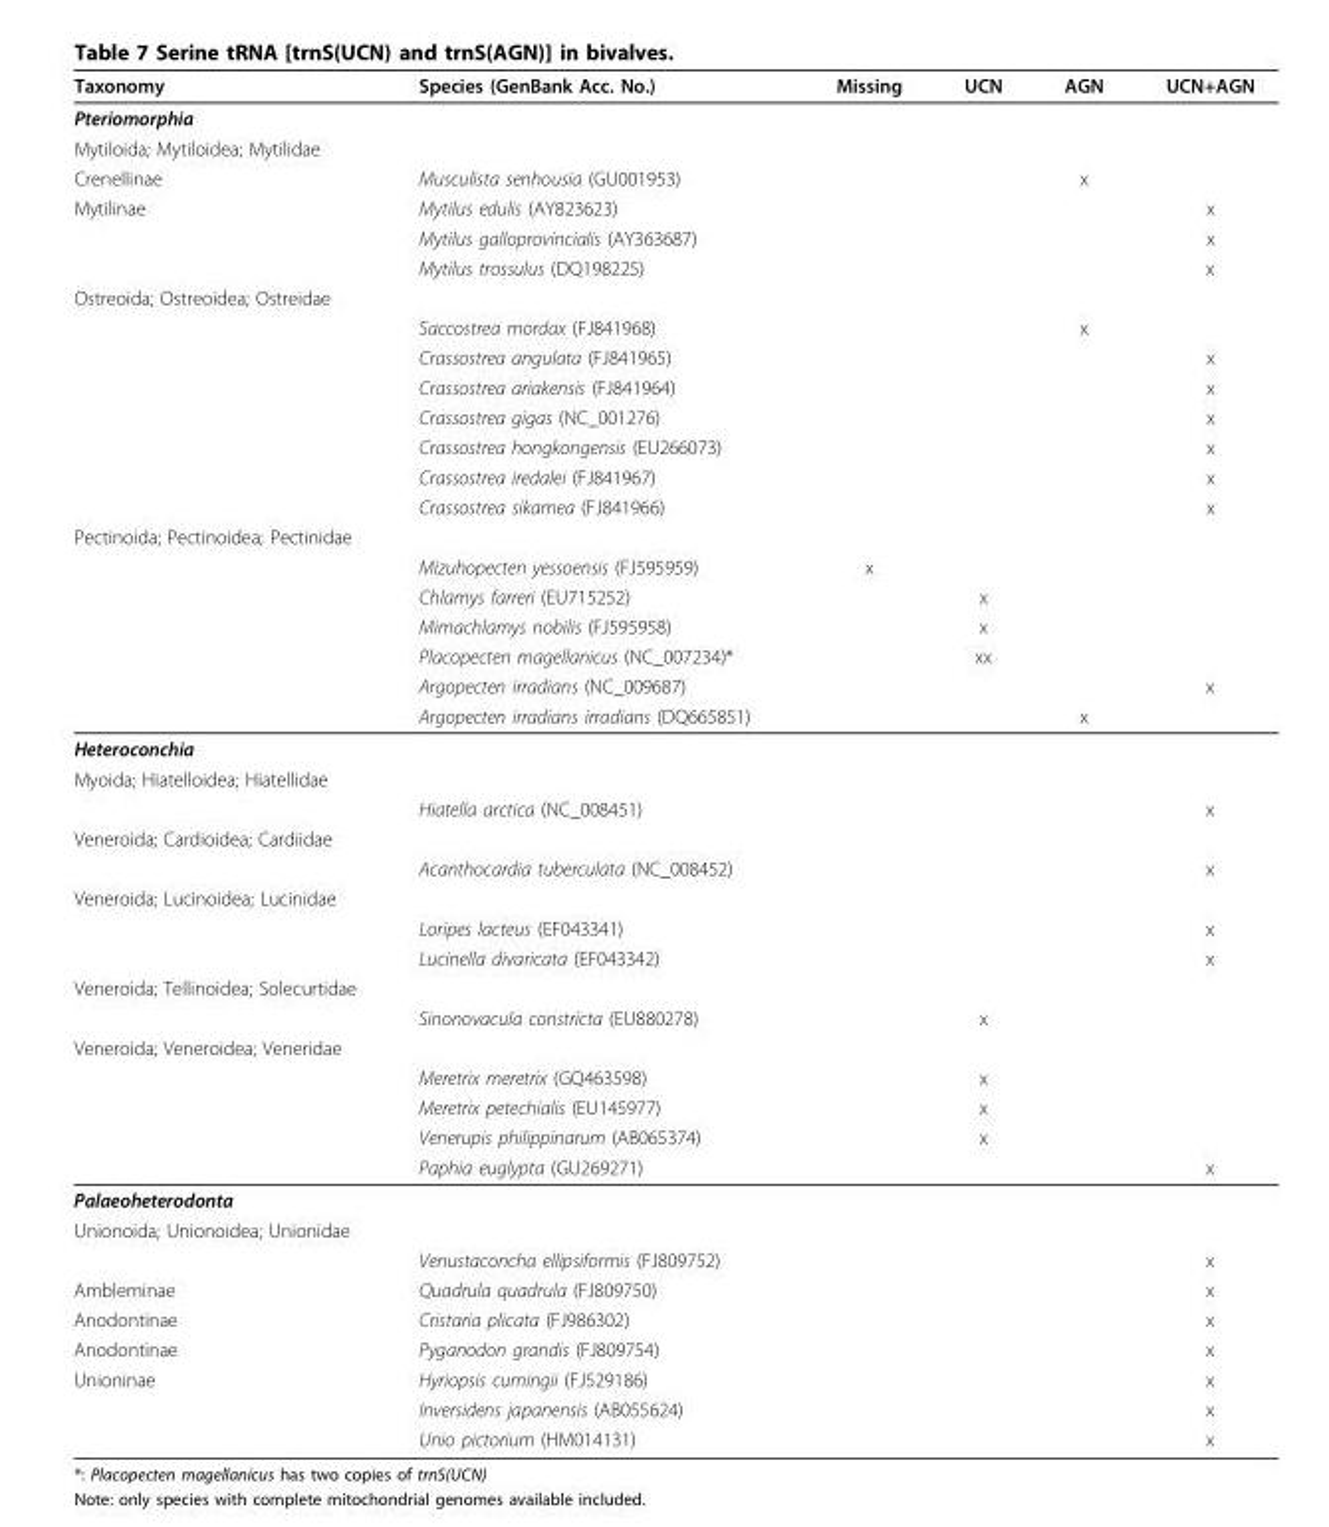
<table><thead><tr><td>Taxonomy</td><td>Species (GenBank Acc. No.)</td><td>Missing</td><td>UCN</td><td>AGN</td><td>UCN+AGN</td></tr></thead><tbody><tr><td colspan="6">Pteriomorphia</td></tr><tr><td colspan="6">Mytiloida; Mytiloidea; Mytilidae</td></tr><tr><td>Crenellinae</td><td>Musculista senhousia (GU001953)</td><td></td><td></td><td>x</td><td></td></tr><tr><td rowspan="3">Mytilinae</td><td>Mytilus edulis (AY823623)</td><td></td><td></td><td></td><td>x</td></tr><tr><td>Mytilus galloprovincialis (AY363687)</td><td></td><td></td><td></td><td>x</td></tr><tr><td>Mytilus trossulus (DQ198225)</td><td></td><td></td><td></td><td>x</td></tr><tr><td colspan="6">Ostreoida; Ostreoidea; Ostreidae</td></tr><tr><td></td><td>Saccostrea mordax (FJ841968)</td><td></td><td></td><td>x</td><td></td></tr><tr><td></td><td>Crassostrea angulata (FJ841965)</td><td></td><td></td><td></td><td>x</td></tr><tr><td></td><td>Crassostrea ariakensis (FJ841964)</td><td></td><td></td><td></td><td>x</td></tr><tr><td></td><td>Crassostrea gigas (NC_001276)</td><td></td><td></td><td></td><td>x</td></tr><tr><td></td><td>Crassostrea hongkongensis (EU266073)</td><td></td><td></td><td></td><td>x</td></tr><tr><td></td><td>Crassostrea iredalei (FJ841967)</td><td></td><td></td><td></td><td>x</td></tr><tr><td></td><td>Crassostrea sikamea (FJ841966)</td><td></td><td></td><td></td><td>x</td></tr><tr><td colspan="6">Pectinoida; Pectinoidea; Pectinidae</td></tr><tr><td></td><td>Mizuhopecten yessoensis (FJ595959)</td><td>x</td><td></td><td></td><td></td></tr><tr><td></td><td>Chlamys farreri (EU715252)</td><td></td><td>x</td><td></td><td></td></tr><tr><td></td><td>Mimachlamys nobilis (FJ595958)</td><td></td><td>x</td><td></td><td></td></tr><tr><td></td><td>Placopecten magellanicus (NC_007234)*</td><td></td><td>xx</td><td></td><td></td></tr><tr><td></td><td>Argopecten irradians (NC_009687)</td><td></td><td></td><td></td><td>x</td></tr><tr><td></td><td>Argopecten irradians irradians (DQ665851)</td><td></td><td></td><td>x</td><td></td></tr><tr><td colspan="6">Heteroconchia</td></tr><tr><td colspan="6">Myoida; Hiatelloidea; Hiatellidae</td></tr><tr><td></td><td>Hiatella arctica (NC_008451)</td><td></td><td></td><td></td><td>x</td></tr><tr><td colspan="6">Veneroida; Cardioidea; Cardiidae</td></tr><tr><td></td><td>Acanthocardia tuberculata (NC_008452)</td><td></td><td></td><td></td><td>x</td></tr><tr><td colspan="6">Veneroida; Lucinoidea; Lucinidae</td></tr><tr><td></td><td>Loripes lacteus (EF043341)</td><td></td><td></td><td></td><td>x</td></tr><tr><td></td><td>Lucinella divaricata (EF043342)</td><td></td><td></td><td></td><td>x</td></tr><tr><td colspan="6">Veneroida; Tellinoidea; Solecurtidae</td></tr><tr><td></td><td>Sinonovacula constricta (EU880278)</td><td></td><td>x</td><td></td><td></td></tr><tr><td colspan="6">Veneroida; Veneroidea; Veneridae</td></tr><tr><td></td><td>Meretrix meretrix (GQ463598)</td><td></td><td>x</td><td></td><td></td></tr><tr><td></td><td>Meretrix petechialis (EU145977)</td><td></td><td>x</td><td></td><td></td></tr><tr><td></td><td>Venerupis philippinarum (AB065374)</td><td></td><td>x</td><td></td><td></td></tr><tr><td></td><td>Paphia euglypta (GU269271)</td><td></td><td></td><td></td><td>x</td></tr><tr><td colspan="6">Palaeoheterodonta</td></tr><tr><td colspan="6">Unionoida; Unionoidea; Unionidae</td></tr><tr><td></td><td>Venustaconcha ellipsiformis (FJ809752)</td><td></td><td></td><td></td><td>x</td></tr><tr><td>Ambleminae</td><td>Quadrula quadrula (FJ809750)</td><td></td><td></td><td></td><td>x</td></tr><tr><td>Anodontinae</td><td>Cristaria plicata (FJ986302)</td><td></td><td></td><td></td><td>x</td></tr><tr><td>Anodontinae</td><td>Pyganodon grandis (FJ809754)</td><td></td><td></td><td></td><td>x</td></tr><tr><td rowspan="3">Unioninae</td><td>Hyriopsis cumingii (FJ529186)</td><td></td><td></td><td></td><td>x</td></tr><tr><td>Inversidens japanensis (AB055624)</td><td></td><td></td><td></td><td>x</td></tr><tr><td>Unio pictorium (HM014131)</td><td></td><td></td><td></td><td>x</td></tr></tbody></table>